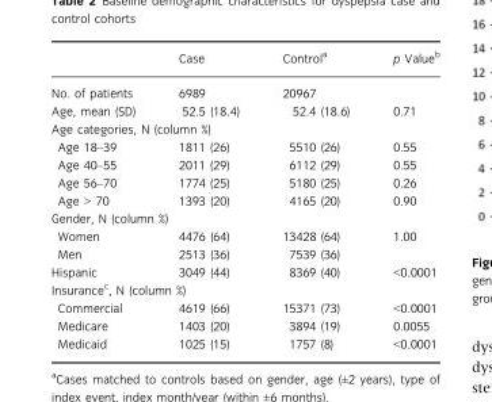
<table><thead><tr><td></td><td>Case</td><td>Control<sup>a</sup></td><td>p Value<sup>b</sup></td></tr></thead><tbody><tr><td>No. of patients</td><td>6989</td><td>20967</td><td></td></tr><tr><td>Age, mean (SD)</td><td>52.5 (18.4)</td><td>52.4 (18.6)</td><td>0.71</td></tr><tr><td colspan="4">Age categories, N (column %)</td></tr><tr><td>Age 18–39</td><td>1811 (26)</td><td>5510 (26)</td><td>0.55</td></tr><tr><td>Age 40–55</td><td>2011 (29)</td><td>6112 (29)</td><td>0.55</td></tr><tr><td>Age 56–70</td><td>1774 (25)</td><td>5180 (25)</td><td>0.26</td></tr><tr><td>Age &gt; 70</td><td>1393 (20)</td><td>4165 (20)</td><td>0.90</td></tr><tr><td colspan="4">Gender, N (column %)</td></tr><tr><td>Women</td><td>4476 (64)</td><td>13428 (64)</td><td>1.00</td></tr><tr><td>Men</td><td>2513 (36)</td><td>7539 (36)</td><td></td></tr><tr><td>Hispanic</td><td>3049 (44)</td><td>8369 (40)</td><td>&lt;0.0001</td></tr><tr><td colspan="4">Insurance<sup>c</sup>, N (column %)</td></tr><tr><td>Commercial</td><td>4619 (66)</td><td>15371 (73)</td><td>&lt;0.0001</td></tr><tr><td>Medicare</td><td>1403 (20)</td><td>3894 (19)</td><td>0.0055</td></tr><tr><td>Medicaid</td><td>1025 (15)</td><td>1757 (8)</td><td>&lt;0.0001</td></tr></tbody></table>